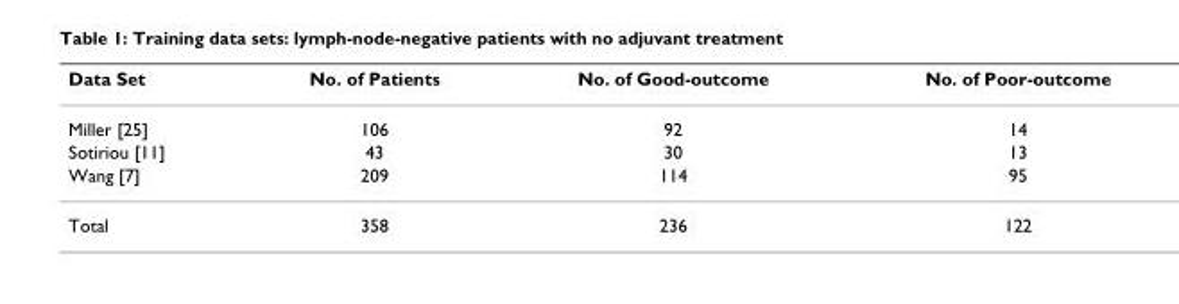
<table><thead><tr><td>Data Set</td><td>No. of Patients</td><td>No. of Good-outcome</td><td>No. of Poor-outcome</td></tr></thead><tbody><tr><td>Miller [25]</td><td>106</td><td>92</td><td>14</td></tr><tr><td>Sotiriou [11]</td><td>43</td><td>30</td><td>13</td></tr><tr><td>Wang [7]</td><td>209</td><td>114</td><td>95</td></tr><tr><td>Total</td><td>358</td><td>236</td><td>122</td></tr></tbody></table>